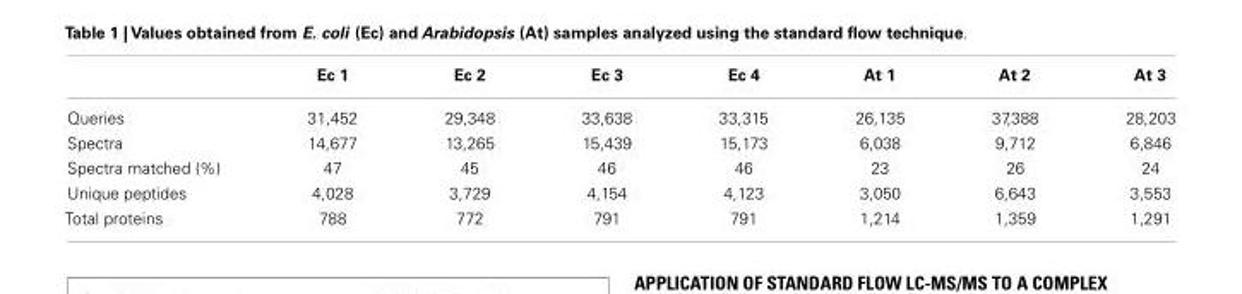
<table><thead><tr><td></td><td>Ec 1</td><td>Ec 2</td><td>Ec 3</td><td>Ec 4</td><td>At 1</td><td>At 2</td><td>At 3</td></tr></thead><tbody><tr><td>Queries</td><td>31,452</td><td>29,348</td><td>33,638</td><td>33,315</td><td>26,135</td><td>37,388</td><td>28,203</td></tr><tr><td>Spectra</td><td>14,677</td><td>13,265</td><td>15,439</td><td>15,173</td><td>6,038</td><td>9,712</td><td>6,846</td></tr><tr><td>Spectra matched (%)</td><td>47</td><td>45</td><td>46</td><td>46</td><td>23</td><td>26</td><td>24</td></tr><tr><td>Unique peptides</td><td>4,028</td><td>3,729</td><td>4,154</td><td>4,123</td><td>3,050</td><td>6,643</td><td>3,553</td></tr><tr><td>Total proteins</td><td>788</td><td>772</td><td>791</td><td>791</td><td>1,214</td><td>1,359</td><td>1,291</td></tr></tbody></table>